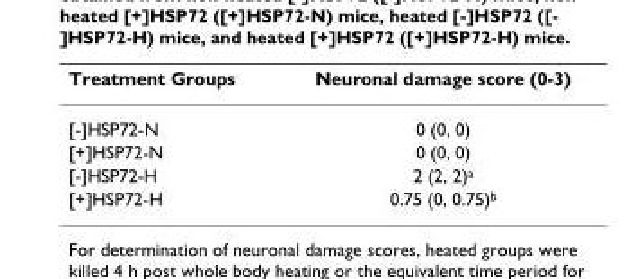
<table><thead><tr><td>Treatment Groups</td><td>Neuronal damage score (0-3)</td></tr></thead><tbody><tr><td>[-]HSP72-N</td><td>0 (0, 0)</td></tr><tr><td>[+]HSP72-N</td><td>0 (0, 0)</td></tr><tr><td>[-]HSP72-H</td><td>2 (2, 2)<sup>a</sup></td></tr><tr><td>[+]HSP72-H</td><td>0.75 (0, 0.75)<sup>b</sup></td></tr></tbody></table>